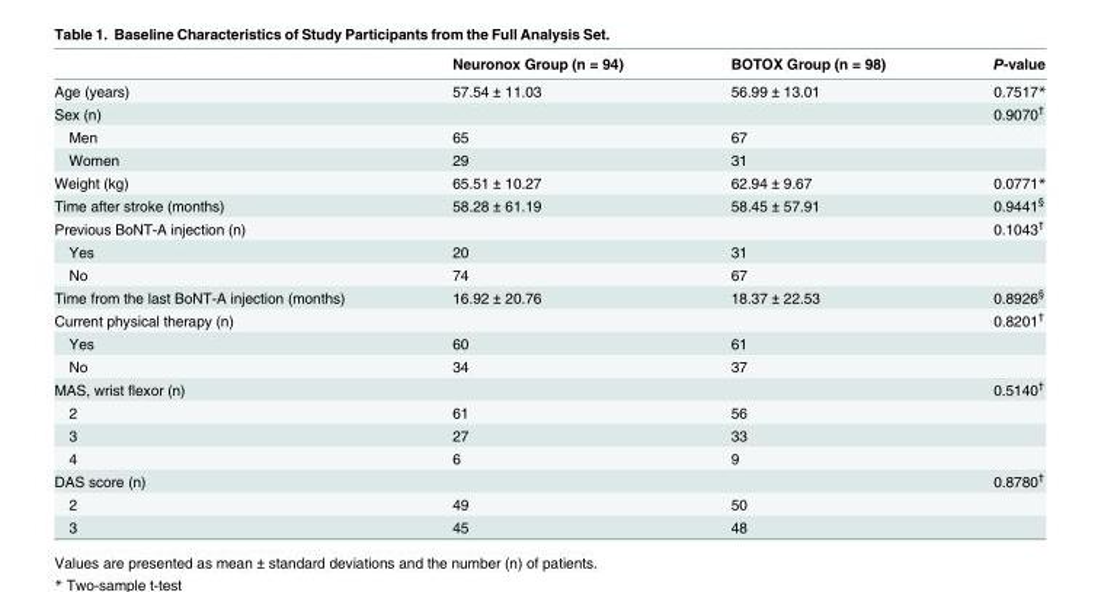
<table><thead><tr><td></td><td>Neuronox Group (n = 94)</td><td>BOTOX Group (n = 98)</td><td>P-value</td></tr></thead><tbody><tr><td>Age (years)</td><td>57.54 ± 11.03</td><td>56.99 ± 13.01</td><td>0.7517*</td></tr><tr><td>Sex (n)</td><td></td><td></td><td>0.9070<sup>†</sup></td></tr><tr><td>Men</td><td>65</td><td>67</td><td></td></tr><tr><td>Women</td><td>29</td><td>31</td><td></td></tr><tr><td>Weight (kg)</td><td>65.51 ± 10.27</td><td>62.94 ± 9.67</td><td>0.0771*</td></tr><tr><td>Time after stroke (months)</td><td>58.28 ± 61.19</td><td>58.45 ± 57.91</td><td>0.9441<sup>§</sup></td></tr><tr><td>Previous BoNT-A injection (n)</td><td></td><td></td><td>0.1043<sup>†</sup></td></tr><tr><td>Yes</td><td>20</td><td>31</td><td></td></tr><tr><td>No</td><td>74</td><td>67</td><td></td></tr><tr><td>Time from the last BoNT-A injection (months)</td><td>16.92 ± 20.76</td><td>18.37 ± 22.53</td><td>0.8926<sup>§</sup></td></tr><tr><td>Current physical therapy (n)</td><td></td><td></td><td>0.8201<sup>†</sup></td></tr><tr><td>Yes</td><td>60</td><td>61</td><td></td></tr><tr><td>No</td><td>34</td><td>37</td><td></td></tr><tr><td>MAS, wrist flexor (n)</td><td></td><td></td><td>0.5140<sup>†</sup></td></tr><tr><td>2</td><td>61</td><td>56</td><td></td></tr><tr><td>3</td><td>27</td><td>33</td><td></td></tr><tr><td>4</td><td>6</td><td>9</td><td></td></tr><tr><td>DAS score (n)</td><td></td><td></td><td>0.8780<sup>†</sup></td></tr><tr><td>2</td><td>49</td><td>50</td><td></td></tr><tr><td>3</td><td>45</td><td>48</td><td></td></tr></tbody></table>